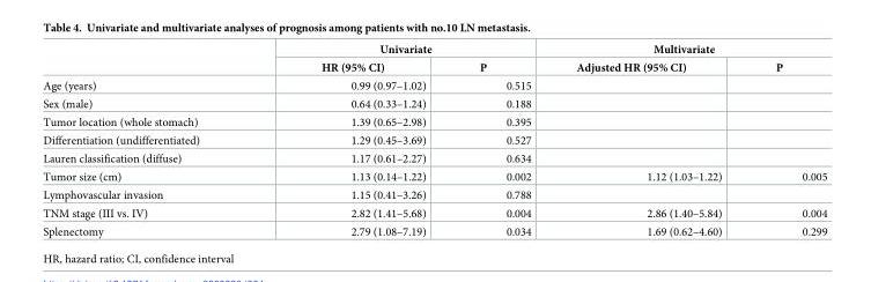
<table><thead><tr><td rowspan="2"></td><td colspan="2">Univariate</td><td colspan="2">Multivariate</td></tr><tr><td>HR (95% CI)</td><td>P</td><td>Adjusted HR (95% CI)</td><td>P</td></tr></thead><tbody><tr><td>Age (years)</td><td>0.99 (0.97–1.02)</td><td>0.515</td><td></td><td></td></tr><tr><td>Sex (male)</td><td>0.64 (0.33–1.24)</td><td>0.188</td><td></td><td></td></tr><tr><td>Tumor location (whole stomach)</td><td>1.39 (0.65–2.98)</td><td>0.395</td><td></td><td></td></tr><tr><td>Differentiation (undifferentiated)</td><td>1.29 (0.45–3.69)</td><td>0.527</td><td></td><td></td></tr><tr><td>Lauren classification (diffuse)</td><td>1.17 (0.61–2.27)</td><td>0.634</td><td></td><td></td></tr><tr><td>Tumor size (cm)</td><td>1.13 (0.14–1.22)</td><td>0.002</td><td>1.12 (1.03–1.22)</td><td>0.005</td></tr><tr><td>Lymphovascular invasion</td><td>1.15 (0.41–3.26)</td><td>0.788</td><td></td><td></td></tr><tr><td>TNM stage (III vs. IV)</td><td>2.82 (1.41–5.68)</td><td>0.004</td><td>2.86 (1.40–5.84)</td><td>0.004</td></tr><tr><td>Splenectomy</td><td>2.79 (1.08–7.19)</td><td>0.034</td><td>1.69 (0.62–4.60)</td><td>0.299</td></tr></tbody></table>